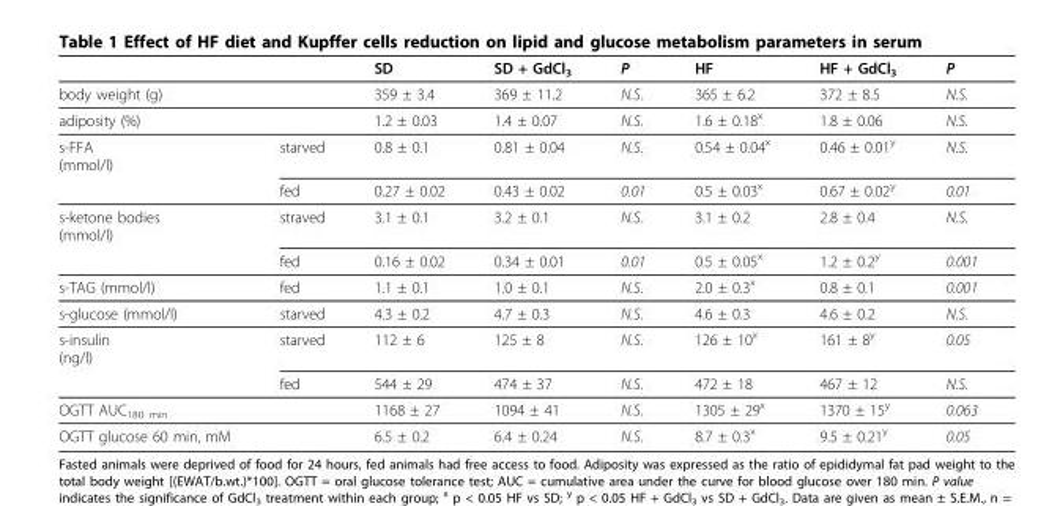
<table><thead><tr><td></td><td></td><td>SD</td><td>SD + GdCl<sub>3</sub></td><td>P</td><td>HF</td><td>HF + GdCl<sub>3</sub></td><td>P</td></tr></thead><tbody><tr><td>body weight (g)</td><td></td><td>359 ± 3.4</td><td>369 ± 11.2</td><td>N.S.</td><td>365 ± 6.2</td><td>372 ± 8.5</td><td>N.S.</td></tr><tr><td>adiposity (%)</td><td></td><td>1.2 ± 0.03</td><td>1.4 ± 0.07</td><td>N.S.</td><td>1.6 ± 0.18<sup>x</sup></td><td>1.8 ± 0.06</td><td>N.S.</td></tr><tr><td rowspan="2">s-FFA (mmol/l)</td><td>starved</td><td>0.8 ± 0.1</td><td>0.81 ± 0.04</td><td>N.S.</td><td>0.54 ± 0.04<sup>x</sup></td><td>0.46 ± 0.01<sup>y</sup></td><td>N.S.</td></tr><tr><td>fed</td><td>0.27 ± 0.02</td><td>0.43 ± 0.02</td><td>0.01</td><td>0.5 ± 0.03<sup>x</sup></td><td>0.67 ± 0.02<sup>y</sup></td><td>0.01</td></tr><tr><td rowspan="2">s-ketone bodies (mmol/l)</td><td>straved</td><td>3.1 ± 0.1</td><td>3.2 ± 0.1</td><td>N.S.</td><td>3.1 ± 0.2</td><td>2.8 ± 0.4</td><td>N.S.</td></tr><tr><td>fed</td><td>0.16 ± 0.02</td><td>0.34 ± 0.01</td><td>0.01</td><td>0.5 ± 0.05<sup>x</sup></td><td>1.2 ± 0.2<sup>y</sup></td><td>0.001</td></tr><tr><td>s-TAG (mmol/l)</td><td>fed</td><td>1.1 ± 0.1</td><td>1.0 ± 0.1</td><td>N.S.</td><td>2.0 ± 0.3<sup>x</sup></td><td>0.8 ± 0.1</td><td>0.001</td></tr><tr><td>s-glucose (mmol/l)</td><td>starved</td><td>4.3 ± 0.2</td><td>4.7 ± 0.3</td><td>N.S.</td><td>4.6 ± 0.3</td><td>4.6 ± 0.2</td><td>N.S.</td></tr><tr><td rowspan="2">s-insulin (ng/l)</td><td>starved</td><td>112 ± 6</td><td>125 ± 8</td><td>N.S.</td><td>126 ± 10<sup>x</sup></td><td>161 ± 8<sup>y</sup></td><td>0.05</td></tr><tr><td>fed</td><td>544 ± 29</td><td>474 ± 37</td><td>N.S.</td><td>472 ± 18</td><td>467 ± 12</td><td>N.S.</td></tr><tr><td>OGTT AUC<sub>180 min</sub></td><td></td><td>1168 ± 27</td><td>1094 ± 41</td><td>N.S.</td><td>1305 ± 29<sup>x</sup></td><td>1370 ± 15<sup>y</sup></td><td>0.063</td></tr><tr><td>OGTT glucose 60 min, mM</td><td></td><td>6.5 ± 0.2</td><td>6.4 ± 0.24</td><td>N.S.</td><td>8.7 ± 0.3<sup>x</sup></td><td>9.5 ± 0.21<sup>y</sup></td><td>0.05</td></tr></tbody></table>